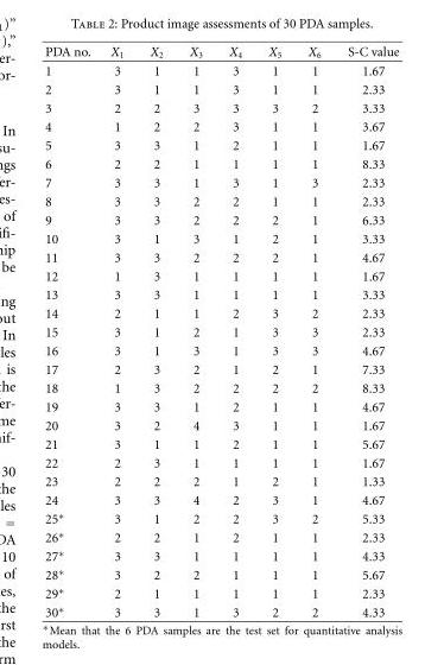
<table><thead><tr><td>PDA no.</td><td>X<sub>1</sub></td><td>X<sub>2</sub></td><td>X<sub>3</sub></td><td>X<sub>4</sub></td><td>X<sub>5</sub></td><td>X<sub>6</sub></td><td>S-C value</td></tr></thead><tbody><tr><td>1</td><td>3</td><td>1</td><td>1</td><td>3</td><td>1</td><td>1</td><td>1.67</td></tr><tr><td>2</td><td>3</td><td>1</td><td>1</td><td>3</td><td>1</td><td>1</td><td>2.33</td></tr><tr><td>3</td><td>2</td><td>2</td><td>3</td><td>3</td><td>3</td><td>2</td><td>3.33</td></tr><tr><td>4</td><td>1</td><td>2</td><td>2</td><td>3</td><td>1</td><td>1</td><td>3.67</td></tr><tr><td>5</td><td>3</td><td>3</td><td>1</td><td>2</td><td>1</td><td>1</td><td>1.67</td></tr><tr><td>6</td><td>2</td><td>2</td><td>1</td><td>1</td><td>1</td><td>1</td><td>8.33</td></tr><tr><td>7</td><td>3</td><td>3</td><td>1</td><td>3</td><td>1</td><td>3</td><td>2.33</td></tr><tr><td>8</td><td>3</td><td>3</td><td>2</td><td>2</td><td>1</td><td>1</td><td>2.33</td></tr><tr><td>9</td><td>3</td><td>3</td><td>2</td><td>2</td><td>2</td><td>1</td><td>6.33</td></tr><tr><td>10</td><td>3</td><td>1</td><td>3</td><td>1</td><td>2</td><td>1</td><td>3.33</td></tr><tr><td>11</td><td>3</td><td>3</td><td>2</td><td>2</td><td>2</td><td>1</td><td>4.67</td></tr><tr><td>12</td><td>1</td><td>3</td><td>1</td><td>1</td><td>1</td><td>1</td><td>1.67</td></tr><tr><td>13</td><td>3</td><td>3</td><td>1</td><td>1</td><td>1</td><td>1</td><td>3.33</td></tr><tr><td>14</td><td>2</td><td>1</td><td>1</td><td>2</td><td>3</td><td>2</td><td>2.33</td></tr><tr><td>15</td><td>3</td><td>1</td><td>2</td><td>1</td><td>3</td><td>3</td><td>2.33</td></tr><tr><td>16</td><td>3</td><td>1</td><td>3</td><td>1</td><td>3</td><td>3</td><td>4.67</td></tr><tr><td>17</td><td>2</td><td>3</td><td>2</td><td>1</td><td>2</td><td>1</td><td>7.33</td></tr><tr><td>18</td><td>1</td><td>3</td><td>2</td><td>2</td><td>2</td><td>2</td><td>8.33</td></tr><tr><td>19</td><td>3</td><td>3</td><td>1</td><td>2</td><td>1</td><td>1</td><td>4.67</td></tr><tr><td>20</td><td>3</td><td>2</td><td>4</td><td>3</td><td>1</td><td>1</td><td>1.67</td></tr><tr><td>21</td><td>3</td><td>1</td><td>1</td><td>2</td><td>1</td><td>1</td><td>5.67</td></tr><tr><td>22</td><td>2</td><td>3</td><td>1</td><td>1</td><td>1</td><td>1</td><td>1.67</td></tr><tr><td>23</td><td>2</td><td>2</td><td>2</td><td>1</td><td>2</td><td>1</td><td>1.33</td></tr><tr><td>24</td><td>3</td><td>3</td><td>4</td><td>2</td><td>3</td><td>1</td><td>4.67</td></tr><tr><td>25∗</td><td>3</td><td>1</td><td>2</td><td>2</td><td>3</td><td>2</td><td>5.33</td></tr><tr><td>26∗</td><td>2</td><td>2</td><td>1</td><td>2</td><td>1</td><td>1</td><td>2.33</td></tr><tr><td>27∗</td><td>3</td><td>3</td><td>1</td><td>1</td><td>1</td><td>1</td><td>4.33</td></tr><tr><td>28∗</td><td>3</td><td>2</td><td>2</td><td>1</td><td>1</td><td>1</td><td>5.67</td></tr><tr><td>29∗</td><td>2</td><td>1</td><td>1</td><td>1</td><td>1</td><td>1</td><td>2.33</td></tr><tr><td>30∗</td><td>3</td><td>3</td><td>1</td><td>3</td><td>2</td><td>2</td><td>4.33</td></tr></tbody></table>